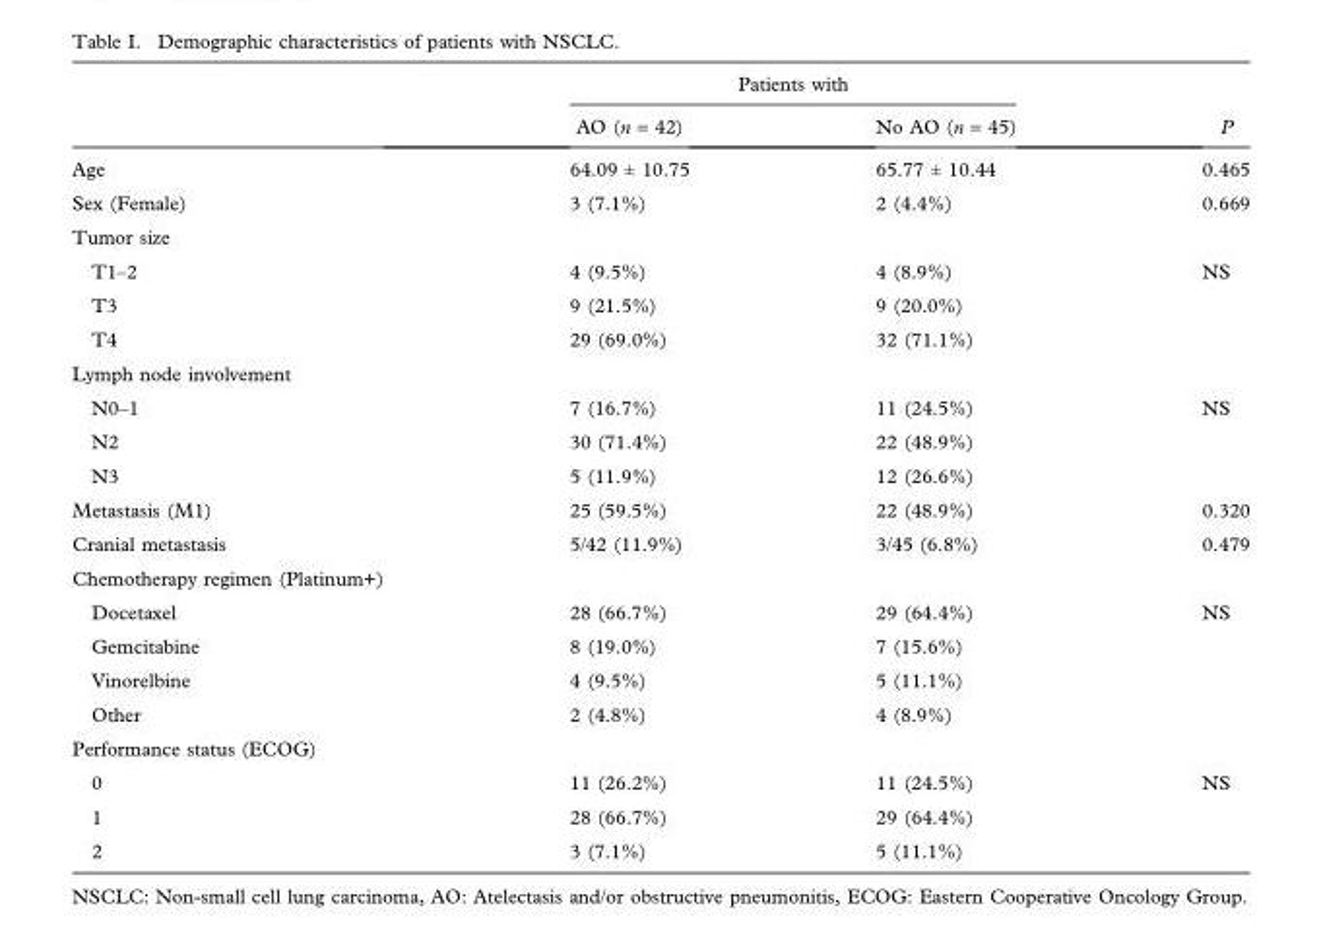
<table><thead><tr><td rowspan="2"></td><td colspan="2">Patients with</td><td rowspan="2">P</td></tr><tr><td>AO (n = 42)</td><td>No AO (n = 45)</td></tr></thead><tbody><tr><td>Age</td><td>64.09 ± 10.75</td><td>65.77 ± 10.44</td><td>0.465</td></tr><tr><td>Sex (Female)</td><td>3 (7.1%)</td><td>2 (4.4%)</td><td>0.669</td></tr><tr><td colspan="4">Tumor size</td></tr><tr><td>T1–2</td><td>4 (9.5%)</td><td>4 (8.9%)</td><td>NS</td></tr><tr><td>T3</td><td>9 (21.5%)</td><td>9 (20.0%)</td><td></td></tr><tr><td>T4</td><td>29 (69.0%)</td><td>32 (71.1%)</td><td></td></tr><tr><td colspan="4">Lymph node involvement</td></tr><tr><td>N0–1</td><td>7 (16.7%)</td><td>11 (24.5%)</td><td>NS</td></tr><tr><td>N2</td><td>30 (71.4%)</td><td>22 (48.9%)</td><td></td></tr><tr><td>N3</td><td>5 (11.9%)</td><td>12 (26.6%)</td><td></td></tr><tr><td>Metastasis (M1)</td><td>25 (59.5%)</td><td>22 (48.9%)</td><td>0.320</td></tr><tr><td>Cranial metastasis</td><td>5/42 (11.9%)</td><td>3/45 (6.8%)</td><td>0.479</td></tr><tr><td colspan="4">Chemotherapy regimen (Platinum+)</td></tr><tr><td>Docetaxel</td><td>28 (66.7%)</td><td>29 (64.4%)</td><td>NS</td></tr><tr><td>Gemcitabine</td><td>8 (19.0%)</td><td>7 (15.6%)</td><td></td></tr><tr><td>Vinorelbine</td><td>4 (9.5%)</td><td>5 (11.1%)</td><td></td></tr><tr><td>Other</td><td>2 (4.8%)</td><td>4 (8.9%)</td><td></td></tr><tr><td colspan="4">Performance status (ECOG)</td></tr><tr><td>0</td><td>11 (26.2%)</td><td>11 (24.5%)</td><td>NS</td></tr><tr><td>1</td><td>28 (66.7%)</td><td>29 (64.4%)</td><td></td></tr><tr><td>2</td><td>3 (7.1%)</td><td>5 (11.1%)</td><td></td></tr></tbody></table>